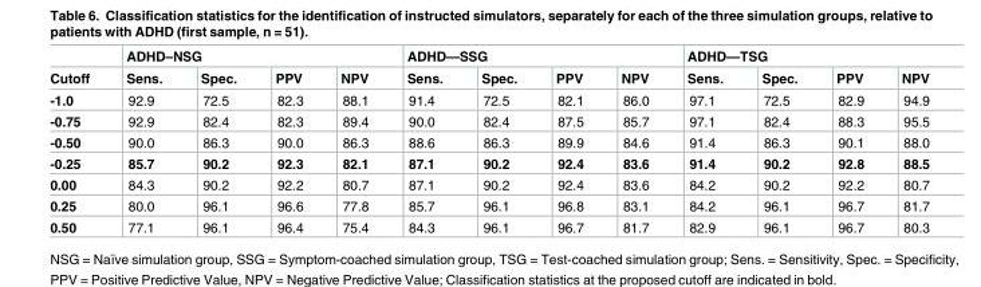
<table><thead><tr><td rowspan="2">Cutoff</td><td colspan="4">ADHD–NSG</td><td colspan="4">ADHD—SSG</td><td colspan="4">ADHD—TSG</td></tr><tr><td>Sens.</td><td>Spec.</td><td>PPV</td><td>NPV</td><td>Sens.</td><td>Spec.</td><td>PPV</td><td>NPV</td><td>Sens.</td><td>Spec.</td><td>PPV</td><td>NPV</td></tr></thead><tbody><tr><td>-1.0</td><td>92.9</td><td>72.5</td><td>82.3</td><td>88.1</td><td>91.4</td><td>72.5</td><td>82.1</td><td>86.0</td><td>97.1</td><td>72.5</td><td>82.9</td><td>94.9</td></tr><tr><td>-0.75</td><td>92.9</td><td>82.4</td><td>82.3</td><td>89.4</td><td>90.0</td><td>82.4</td><td>87.5</td><td>85.7</td><td>97.1</td><td>82.4</td><td>88.3</td><td>95.5</td></tr><tr><td>-0.50</td><td>90.0</td><td>86.3</td><td>90.0</td><td>86.3</td><td>88.6</td><td>86.3</td><td>89.9</td><td>84.6</td><td>91.4</td><td>86.3</td><td>90.1</td><td>88.0</td></tr><tr><td>-0.25</td><td>85.7</td><td>90.2</td><td>92.3</td><td>82.1</td><td>87.1</td><td>90.2</td><td>92.4</td><td>83.6</td><td>91.4</td><td>90.2</td><td>92.8</td><td>88.5</td></tr><tr><td>0.00</td><td>84.3</td><td>90.2</td><td>92.2</td><td>80.7</td><td>87.1</td><td>90.2</td><td>92.4</td><td>83.6</td><td>84.2</td><td>90.2</td><td>92.2</td><td>80.7</td></tr><tr><td>0.25</td><td>80.0</td><td>96.1</td><td>96.6</td><td>77.8</td><td>85.7</td><td>96.1</td><td>96.8</td><td>83.1</td><td>84.2</td><td>96.1</td><td>96.7</td><td>81.7</td></tr><tr><td>0.50</td><td>77.1</td><td>96.1</td><td>96.4</td><td>75.4</td><td>84.3</td><td>96.1</td><td>96.7</td><td>81.7</td><td>82.9</td><td>96.1</td><td>96.7</td><td>80.3</td></tr></tbody></table>